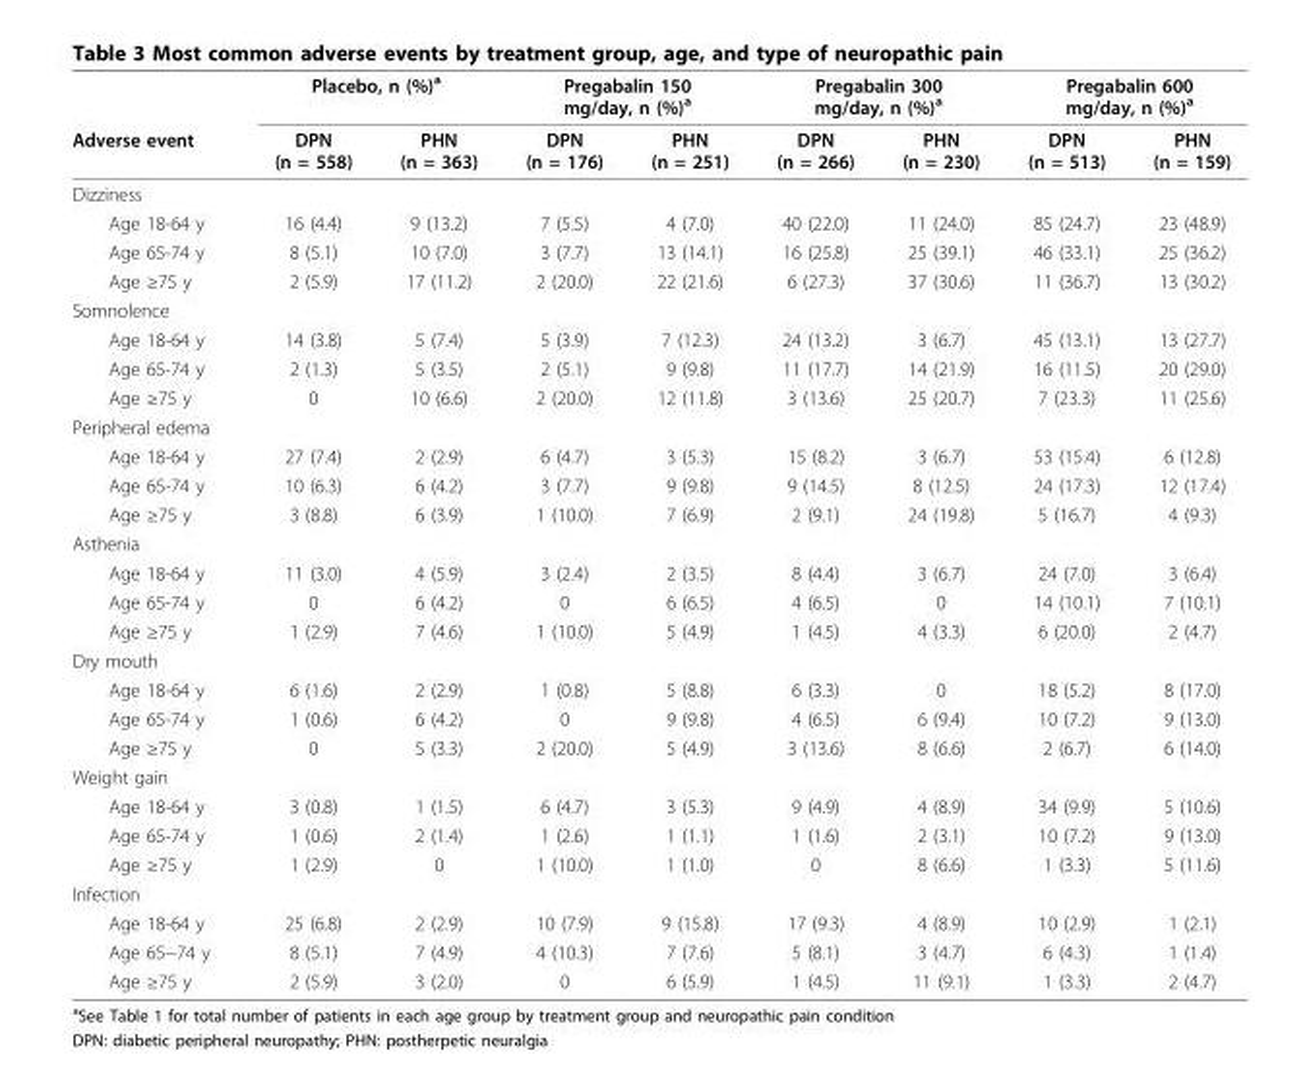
<table><thead><tr><td rowspan="2">Adverse event</td><td colspan="2">Placebo, n (%)<sup>a</sup></td><td colspan="2">Pregabalin 150 mg/day, n (%)<sup>a</sup></td><td colspan="2">Pregabalin 300 mg/day, n (%)<sup>a</sup></td><td colspan="2">Pregabalin 600 mg/day, n (%)<sup>a</sup></td></tr><tr><td>DPN (n = 558)</td><td>PHN (n = 363)</td><td>DPN (n = 176)</td><td>PHN (n = 251)</td><td>DPN (n = 266)</td><td>PHN (n = 230)</td><td>DPN (n = 513)</td><td>PHN (n = 159)</td></tr></thead><tbody><tr><td colspan="9">Dizziness</td></tr><tr><td>Age 18-64 y</td><td>16 (4.4)</td><td>9 (13.2)</td><td>7 (5.5)</td><td>4 (7.0)</td><td>40 (22.0)</td><td>11 (24.0)</td><td>85 (24.7)</td><td>23 (48.9)</td></tr><tr><td>Age 65-74 y</td><td>8 (5.1)</td><td>10 (7.0)</td><td>3 (7.7)</td><td>13 (14.1)</td><td>16 (25.8)</td><td>25 (39.1)</td><td>46 (33.1)</td><td>25 (36.2)</td></tr><tr><td>Age ≥75 y</td><td>2 (5.9)</td><td>17 (11.2)</td><td>2 (20.0)</td><td>22 (21.6)</td><td>6 (27.3)</td><td>37 (30.6)</td><td>11 (36.7)</td><td>13 (30.2)</td></tr><tr><td colspan="9">Somnolence</td></tr><tr><td>Age 18-64 y</td><td>14 (3.8)</td><td>5 (7.4)</td><td>5 (3.9)</td><td>7 (12.3)</td><td>24 (13.2)</td><td>3 (6.7)</td><td>45 (13.1)</td><td>13 (27.7)</td></tr><tr><td>Age 65-74 y</td><td>2 (1.3)</td><td>5 (3.5)</td><td>2 (5.1)</td><td>9 (9.8)</td><td>11 (17.7)</td><td>14 (21.9)</td><td>16 (11.5)</td><td>20 (29.0)</td></tr><tr><td>Age ≥75 y</td><td>0</td><td>10 (6.6)</td><td>2 (20.0)</td><td>12 (11.8)</td><td>3 (13.6)</td><td>25 (20.7)</td><td>7 (23.3)</td><td>11 (25.6)</td></tr><tr><td colspan="9">Peripheral edema</td></tr><tr><td>Age 18-64 y</td><td>27 (7.4)</td><td>2 (2.9)</td><td>6 (4.7)</td><td>3 (5.3)</td><td>15 (8.2)</td><td>3 (6.7)</td><td>53 (15.4)</td><td>6 (12.8)</td></tr><tr><td>Age 65-74 y</td><td>10 (6.3)</td><td>6 (4.2)</td><td>3 (7.7)</td><td>9 (9.8)</td><td>9 (14.5)</td><td>8 (12.5)</td><td>24 (17.3)</td><td>12 (17.4)</td></tr><tr><td>Age ≥75 y</td><td>3 (8.8)</td><td>6 (3.9)</td><td>1 (10.0)</td><td>7 (6.9)</td><td>2 (9.1)</td><td>24 (19.8)</td><td>5 (16.7)</td><td>4 (9.3)</td></tr><tr><td colspan="9">Asthenia</td></tr><tr><td>Age 18-64 y</td><td>11 (3.0)</td><td>4 (5.9)</td><td>3 (2.4)</td><td>2 (3.5)</td><td>8 (4.4)</td><td>3 (6.7)</td><td>24 (7.0)</td><td>3 (6.4)</td></tr><tr><td>Age 65-74 y</td><td>0</td><td>6 (4.2)</td><td>0</td><td>6 (6.5)</td><td>4 (6.5)</td><td>0</td><td>14 (10.1)</td><td>7 (10.1)</td></tr><tr><td>Age ≥75 y</td><td>1 (2.9)</td><td>7 (4.6)</td><td>1 (10.0)</td><td>5 (4.9)</td><td>1 (4.5)</td><td>4 (3.3)</td><td>6 (20.0)</td><td>2 (4.7)</td></tr><tr><td colspan="9">Dry mouth</td></tr><tr><td>Age 18-64 y</td><td>6 (1.6)</td><td>2 (2.9)</td><td>1 (0.8)</td><td>5 (8.8)</td><td>6 (3.3)</td><td>0</td><td>18 (5.2)</td><td>8 (17.0)</td></tr><tr><td>Age 65-74 y</td><td>1 (0.6)</td><td>6 (4.2)</td><td>0</td><td>9 (9.8)</td><td>4 (6.5)</td><td>6 (9.4)</td><td>10 (7.2)</td><td>9 (13.0)</td></tr><tr><td>Age ≥75 y</td><td>0</td><td>5 (3.3)</td><td>2 (20.0)</td><td>5 (4.9)</td><td>3 (13.6)</td><td>8 (6.6)</td><td>2 (6.7)</td><td>6 (14.0)</td></tr><tr><td colspan="9">Weight gain</td></tr><tr><td>Age 18-64 y</td><td>3 (0.8)</td><td>1 (1.5)</td><td>6 (4.7)</td><td>3 (5.3)</td><td>9 (4.9)</td><td>4 (8.9)</td><td>34 (9.9)</td><td>5 (10.6)</td></tr><tr><td>Age 65-74 y</td><td>1 (0.6)</td><td>2 (1.4)</td><td>1 (2.6)</td><td>1 (1.1)</td><td>1 (1.6)</td><td>2 (3.1)</td><td>10 (7.2)</td><td>9 (13.0)</td></tr><tr><td>Age ≥75 y</td><td>1 (2.9)</td><td>0</td><td>1 (10.0)</td><td>1 (1.0)</td><td>0</td><td>8 (6.6)</td><td>1 (3.3)</td><td>5 (11.6)</td></tr><tr><td colspan="9">Infection</td></tr><tr><td>Age 18-64 y</td><td>25 (6.8)</td><td>2 (2.9)</td><td>10 (7.9)</td><td>9 (15.8)</td><td>17 (9.3)</td><td>4 (8.9)</td><td>10 (2.9)</td><td>1 (2.1)</td></tr><tr><td>Age 65−74 y</td><td>8 (5.1)</td><td>7 (4.9)</td><td>4 (10.3)</td><td>7 (7.6)</td><td>5 (8.1)</td><td>3 (4.7)</td><td>6 (4.3)</td><td>1 (1.4)</td></tr><tr><td>Age ≥75 y</td><td>2 (5.9)</td><td>3 (2.0)</td><td>0</td><td>6 (5.9)</td><td>1 (4.5)</td><td>11 (9.1)</td><td>1 (3.3)</td><td>2 (4.7)</td></tr></tbody></table>